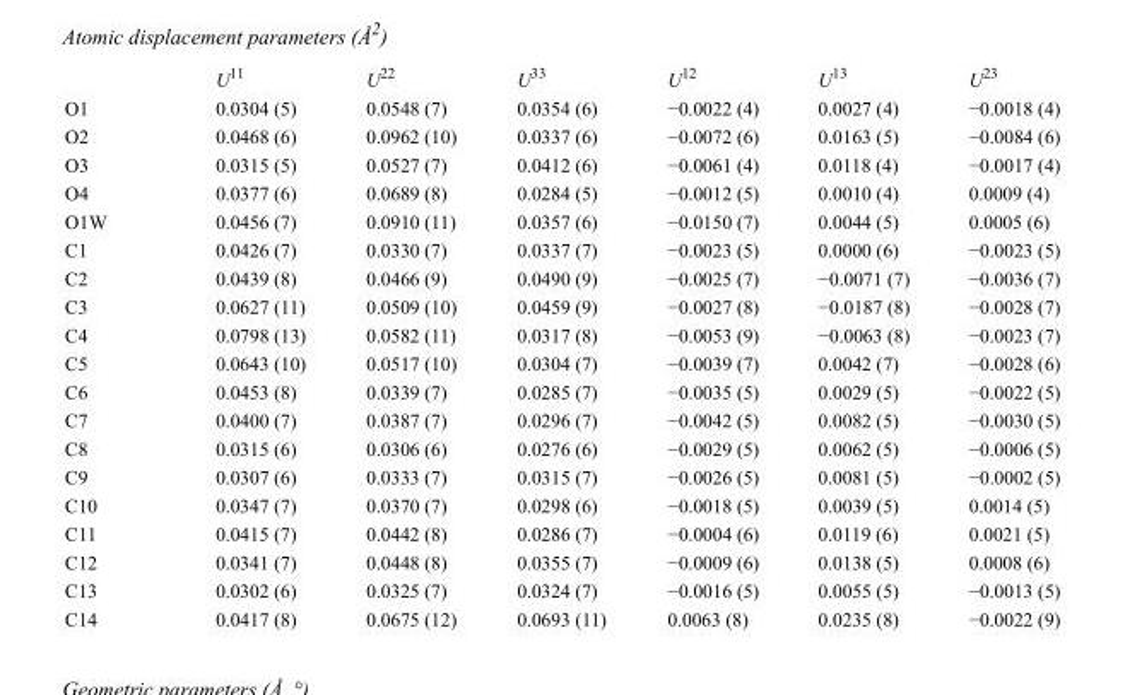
<table><thead><tr><td></td><td>U<sup>11</sup></td><td>U<sup>22</sup></td><td>U<sup>33</sup></td><td>U<sup>12</sup></td><td>U<sup>13</sup></td><td>U<sup>23</sup></td></tr></thead><tbody><tr><td>O1</td><td>0.0304 (5)</td><td>0.0548 (7)</td><td>0.0354 (6)</td><td>−0.0022 (4)</td><td>0.0027 (4)</td><td>−0.0018 (4)</td></tr><tr><td>O2</td><td>0.0468 (6)</td><td>0.0962 (10)</td><td>0.0337 (6)</td><td>−0.0072 (6)</td><td>0.0163 (5)</td><td>−0.0084 (6)</td></tr><tr><td>O3</td><td>0.0315 (5)</td><td>0.0527 (7)</td><td>0.0412 (6)</td><td>−0.0061 (4)</td><td>0.0118 (4)</td><td>−0.0017 (4)</td></tr><tr><td>O4</td><td>0.0377 (6)</td><td>0.0689 (8)</td><td>0.0284 (5)</td><td>−0.0012 (5)</td><td>0.0010 (4)</td><td>0.0009 (4)</td></tr><tr><td>O1W</td><td>0.0456 (7)</td><td>0.0910 (11)</td><td>0.0357 (6)</td><td>−0.0150 (7)</td><td>0.0044 (5)</td><td>0.0005 (6)</td></tr><tr><td>C1</td><td>0.0426 (7)</td><td>0.0330 (7)</td><td>0.0337 (7)</td><td>−0.0023 (5)</td><td>0.0000 (6)</td><td>−0.0023 (5)</td></tr><tr><td>C2</td><td>0.0439 (8)</td><td>0.0466 (9)</td><td>0.0490 (9)</td><td>−0.0025 (7)</td><td>−0.0071 (7)</td><td>−0.0036 (7)</td></tr><tr><td>C3</td><td>0.0627 (11)</td><td>0.0509 (10)</td><td>0.0459 (9)</td><td>−0.0027 (8)</td><td>−0.0187 (8)</td><td>−0.0028 (7)</td></tr><tr><td>C4</td><td>0.0798 (13)</td><td>0.0582 (11)</td><td>0.0317 (8)</td><td>−0.0053 (9)</td><td>−0.0063 (8)</td><td>−0.0023 (7)</td></tr><tr><td>C5</td><td>0.0643 (10)</td><td>0.0517 (10)</td><td>0.0304 (7)</td><td>−0.0039 (7)</td><td>0.0042 (7)</td><td>−0.0028 (6)</td></tr><tr><td>C6</td><td>0.0453 (8)</td><td>0.0339 (7)</td><td>0.0285 (7)</td><td>−0.0035 (5)</td><td>0.0029 (5)</td><td>−0.0022 (5)</td></tr><tr><td>C7</td><td>0.0400 (7)</td><td>0.0387 (7)</td><td>0.0296 (7)</td><td>−0.0042 (5)</td><td>0.0082 (5)</td><td>−0.0030 (5)</td></tr><tr><td>C8</td><td>0.0315 (6)</td><td>0.0306 (6)</td><td>0.0276 (6)</td><td>−0.0029 (5)</td><td>0.0062 (5)</td><td>−0.0006 (5)</td></tr><tr><td>C9</td><td>0.0307 (6)</td><td>0.0333 (7)</td><td>0.0315 (7)</td><td>−0.0026 (5)</td><td>0.0081 (5)</td><td>−0.0002 (5)</td></tr><tr><td>C10</td><td>0.0347 (7)</td><td>0.0370 (7)</td><td>0.0298 (6)</td><td>−0.0018 (5)</td><td>0.0039 (5)</td><td>0.0014 (5)</td></tr><tr><td>C11</td><td>0.0415 (7)</td><td>0.0442 (8)</td><td>0.0286 (7)</td><td>−0.0004 (6)</td><td>0.0119 (6)</td><td>0.0021 (5)</td></tr><tr><td>C12</td><td>0.0341 (7)</td><td>0.0448 (8)</td><td>0.0355 (7)</td><td>−0.0009 (6)</td><td>0.0138 (5)</td><td>0.0008 (6)</td></tr><tr><td>C13</td><td>0.0302 (6)</td><td>0.0325 (7)</td><td>0.0324 (7)</td><td>−0.0016 (5)</td><td>0.0055 (5)</td><td>−0.0013 (5)</td></tr><tr><td>C14</td><td>0.0417 (8)</td><td>0.0675 (12)</td><td>0.0693 (11)</td><td>0.0063 (8)</td><td>0.0235 (8)</td><td>−0.0022 (9)</td></tr></tbody></table>